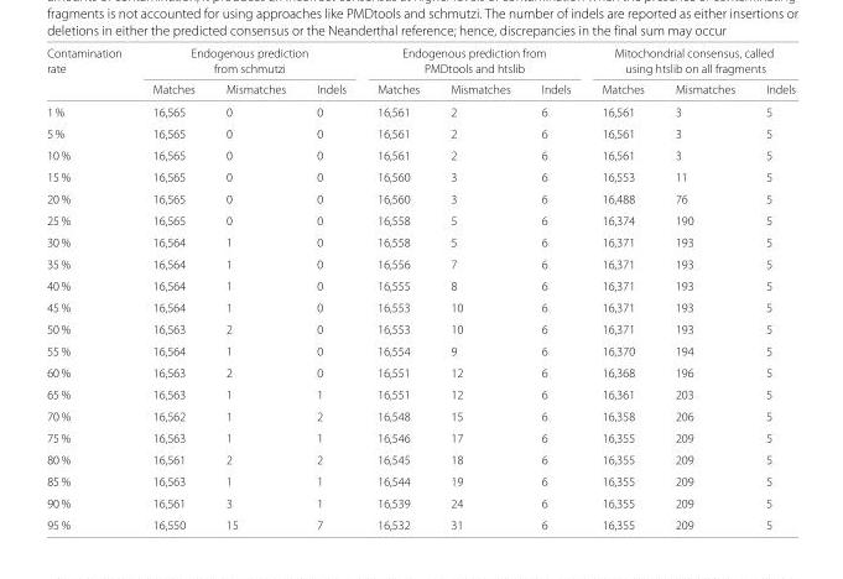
<table><thead><tr><td rowspan="3">Contamination rate</td><td rowspan="2" colspan="3">Endogenous prediction from schmutzi</td><td rowspan="2" colspan="3">Endogenous prediction from PMDtools and htslib</td><td rowspan="2" colspan="3">Mitochondrial consensus, called using htslib on all fragments</td></tr><tr></tr><tr><td>Matches</td><td>Mismatches</td><td>Indels</td><td>Matches</td><td>Mismatches</td><td>Indels</td><td>Matches</td><td>Mismatches</td><td>Indels</td></tr></thead><tbody><tr><td>1 %</td><td>16,565</td><td>0</td><td>0</td><td>16,561</td><td>2</td><td>6</td><td>16,561</td><td>3</td><td>5</td></tr><tr><td>5 %</td><td>16,565</td><td>0</td><td>0</td><td>16,561</td><td>2</td><td>6</td><td>16,561</td><td>3</td><td>5</td></tr><tr><td>10 %</td><td>16,565</td><td>0</td><td>0</td><td>16,561</td><td>2</td><td>6</td><td>16,561</td><td>3</td><td>5</td></tr><tr><td>15 %</td><td>16,565</td><td>0</td><td>0</td><td>16,560</td><td>3</td><td>6</td><td>16,553</td><td>11</td><td>5</td></tr><tr><td>20 %</td><td>16,565</td><td>0</td><td>0</td><td>16,560</td><td>3</td><td>6</td><td>16,488</td><td>76</td><td>5</td></tr><tr><td>25 %</td><td>16,565</td><td>0</td><td>0</td><td>16,558</td><td>5</td><td>6</td><td>16,374</td><td>190</td><td>5</td></tr><tr><td>30 %</td><td>16,564</td><td>1</td><td>0</td><td>16,558</td><td>5</td><td>6</td><td>16,371</td><td>193</td><td>5</td></tr><tr><td>35 %</td><td>16,564</td><td>1</td><td>0</td><td>16,556</td><td>7</td><td>6</td><td>16,371</td><td>193</td><td>5</td></tr><tr><td>40 %</td><td>16,564</td><td>1</td><td>0</td><td>16,555</td><td>8</td><td>6</td><td>16,371</td><td>193</td><td>5</td></tr><tr><td>45 %</td><td>16,564</td><td>1</td><td>0</td><td>16,553</td><td>10</td><td>6</td><td>16,371</td><td>193</td><td>5</td></tr><tr><td>50 %</td><td>16,563</td><td>2</td><td>0</td><td>16,553</td><td>10</td><td>6</td><td>16,371</td><td>193</td><td>5</td></tr><tr><td>55 %</td><td>16,564</td><td>1</td><td>0</td><td>16,554</td><td>9</td><td>6</td><td>16,370</td><td>194</td><td>5</td></tr><tr><td>60 %</td><td>16,563</td><td>2</td><td>0</td><td>16,551</td><td>12</td><td>6</td><td>16,368</td><td>196</td><td>5</td></tr><tr><td>65 %</td><td>16,563</td><td>1</td><td>1</td><td>16,551</td><td>12</td><td>6</td><td>16,361</td><td>203</td><td>5</td></tr><tr><td>70 %</td><td>16,562</td><td>1</td><td>2</td><td>16,548</td><td>15</td><td>6</td><td>16,358</td><td>206</td><td>5</td></tr><tr><td>75 %</td><td>16,563</td><td>1</td><td>1</td><td>16,546</td><td>17</td><td>6</td><td>16,355</td><td>209</td><td>5</td></tr><tr><td>80 %</td><td>16,561</td><td>2</td><td>2</td><td>16,545</td><td>18</td><td>6</td><td>16,355</td><td>209</td><td>5</td></tr><tr><td>85 %</td><td>16,563</td><td>1</td><td>1</td><td>16,544</td><td>19</td><td>6</td><td>16,355</td><td>209</td><td>5</td></tr><tr><td>90 %</td><td>16,561</td><td>3</td><td>1</td><td>16,539</td><td>24</td><td>6</td><td>16,355</td><td>209</td><td>5</td></tr><tr><td>95 %</td><td>16,550</td><td>15</td><td>7</td><td>16,532</td><td>31</td><td>6</td><td>16,355</td><td>209</td><td>5</td></tr></tbody></table>